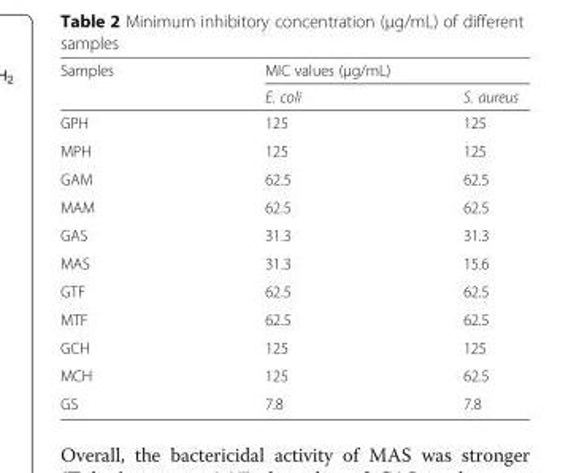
<table><thead><tr><td rowspan="2">Samples</td><td colspan="2">MIC values (μg/mL)</td></tr><tr><td>E. coli</td><td>S. aureus</td></tr></thead><tbody><tr><td>GPH</td><td>125</td><td>125</td></tr><tr><td>MPH</td><td>125</td><td>125</td></tr><tr><td>GAM</td><td>62.5</td><td>62.5</td></tr><tr><td>MAM</td><td>62.5</td><td>62.5</td></tr><tr><td>GAS</td><td>31.3</td><td>31.3</td></tr><tr><td>MAS</td><td>31.3</td><td>15.6</td></tr><tr><td>GTF</td><td>62.5</td><td>62.5</td></tr><tr><td>MTF</td><td>62.5</td><td>62.5</td></tr><tr><td>GCH</td><td>125</td><td>125</td></tr><tr><td>MCH</td><td>125</td><td>62.5</td></tr><tr><td>GS</td><td>7.8</td><td>7.8</td></tr></tbody></table>